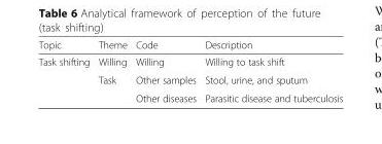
<table><thead><tr><td>Topic</td><td>Theme</td><td>Code</td><td>Description</td></tr></thead><tbody><tr><td rowspan="3">Task shifting</td><td>Willing</td><td>Willing</td><td>Willing to task shift</td></tr><tr><td rowspan="2">Task</td><td>Other samples</td><td>Stool, urine, and sputum</td></tr><tr><td>Other diseases</td><td>Parasitic disease and tuberculosis</td></tr></tbody></table>